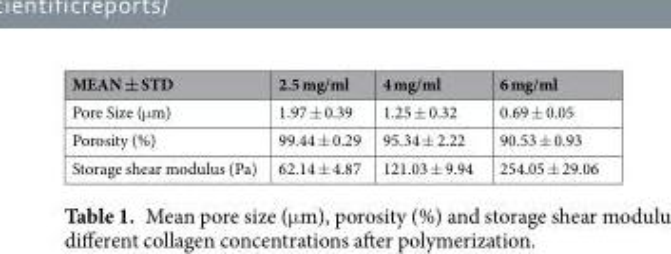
<table><thead><tr><td>MEAN ± STD</td><td>2.5 mg/ml</td><td>4 mg/ml</td><td>6 mg/ml</td></tr></thead><tbody><tr><td>Pore Size (μm)</td><td>1.97 ± 0.39</td><td>1.25 ± 0.32</td><td>0.69 ± 0.05</td></tr><tr><td>Porosity (%)</td><td>99.44 ± 0.29</td><td>95.34 ± 2.22</td><td>90.53 ± 0.93</td></tr><tr><td>Storage shear modulus (Pa)</td><td>62.14 ± 4.87</td><td>121.03 ± 9.94</td><td>254.05 ± 29.06</td></tr></tbody></table>